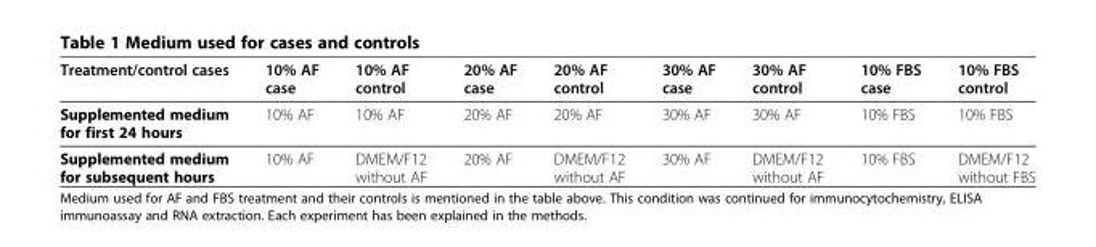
<table><thead><tr><td>Treatment/control cases</td><td>10% AF case</td><td>10% AF control</td><td>20% AF case</td><td>20% AF control</td><td>30% AF case</td><td>30% AF control</td><td>10% FBS case</td><td>10% FBS control</td></tr></thead><tbody><tr><td>Supplemented medium for first 24 hours</td><td>10% AF</td><td>10% AF</td><td>20% AF</td><td>20% AF</td><td>30% AF</td><td>30% AF</td><td>10% FBS</td><td>10% FBS</td></tr><tr><td>Supplemented medium for subsequent hours</td><td>10% AF</td><td>DMEM/F12 without AF</td><td>20% AF</td><td>DMEM/F12 without AF</td><td>30% AF</td><td>DMEM/F12 without AF</td><td>10% FBS</td><td>DMEM/F12 without FBS</td></tr></tbody></table>